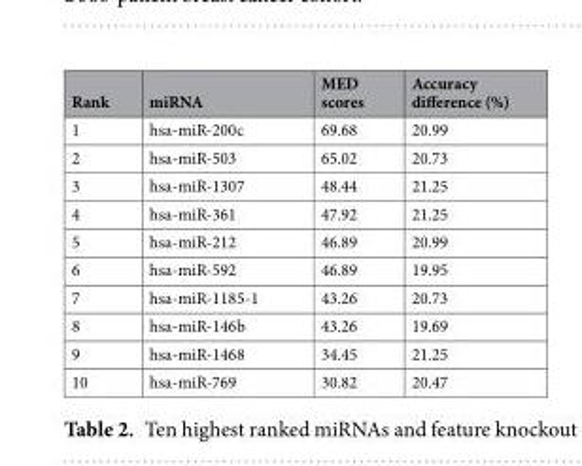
<table><thead><tr><td>Rank</td><td>miRNA</td><td>MED scores</td><td>Accuracy difference (%)</td></tr></thead><tbody><tr><td>1</td><td>hsa-miR-200c</td><td>69.68</td><td>20.99</td></tr><tr><td>2</td><td>hsa-miR-503</td><td>65.02</td><td>20.73</td></tr><tr><td>3</td><td>hsa-miR-1307</td><td>48.44</td><td>21.25</td></tr><tr><td>4</td><td>hsa-miR-361</td><td>47.92</td><td>21.25</td></tr><tr><td>5</td><td>hsa-miR-212</td><td>46.89</td><td>20.99</td></tr><tr><td>6</td><td>hsa-miR-592</td><td>46.89</td><td>19.95</td></tr><tr><td>7</td><td>hsa-miR-1185-1</td><td>43.26</td><td>20.73</td></tr><tr><td>8</td><td>hsa-miR-146b</td><td>43.26</td><td>19.69</td></tr><tr><td>9</td><td>hsa-miR-1468</td><td>34.45</td><td>21.25</td></tr><tr><td>10</td><td>hsa-miR-769</td><td>30.82</td><td>20.47</td></tr></tbody></table>